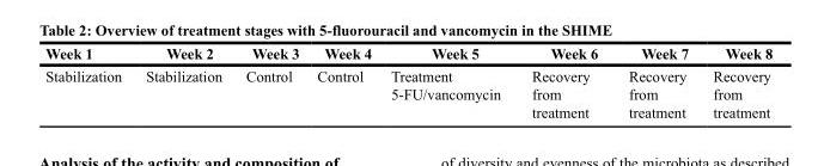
<table><thead><tr><td>Week 1</td><td>Week 2</td><td>Week 3</td><td>Week 4</td><td>Week 5</td><td>Week 6</td><td>Week 7</td><td>Week 8</td></tr></thead><tbody><tr><td>Stabilization</td><td>Stabilization</td><td>Control</td><td>Control</td><td>Treatment 5-FU/vancomycin</td><td>Recovery from treatment</td><td>Recovery from treatment</td><td>Recovery from treatment</td></tr></tbody></table>